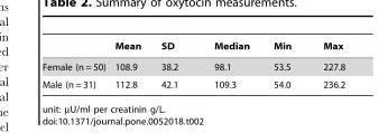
<table><thead><tr><td></td><td>Mean</td><td>SD</td><td>Median</td><td>Min</td><td>Max</td></tr></thead><tbody><tr><td>Female (n = 50)</td><td>108.9</td><td>38.2</td><td>98.1</td><td>53.5</td><td>227.8</td></tr><tr><td>Male (n = 31)</td><td>112.8</td><td>42.1</td><td>109.3</td><td>54.0</td><td>236.2</td></tr></tbody></table>